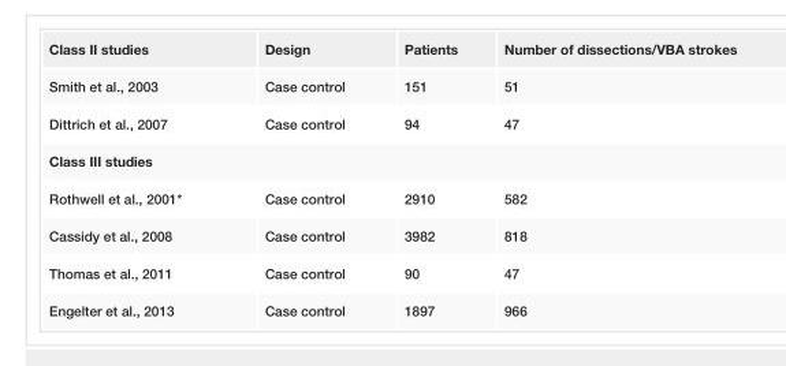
<table><tbody><tr><td>Class II studies</td><td>Design</td><td>Patients</td><td>Number of dissections/VBA strokes</td></tr><tr><td>Smith et al., 2003</td><td>Case control</td><td>151</td><td>51</td></tr><tr><td>Dittrich et al., 2007</td><td>Case control</td><td>94</td><td>47</td></tr><tr><td colspan="4">Class III studies</td></tr><tr><td>Rothwell et al., 2001*</td><td>Case control</td><td>2910</td><td>582</td></tr><tr><td>Cassidy et al., 2008</td><td>Case control</td><td>3982</td><td>818</td></tr><tr><td>Thomas et al., 2011</td><td>Case control</td><td>90</td><td>47</td></tr><tr><td>Engelter et al., 2013</td><td>Case control</td><td>1897</td><td>966</td></tr></tbody></table>